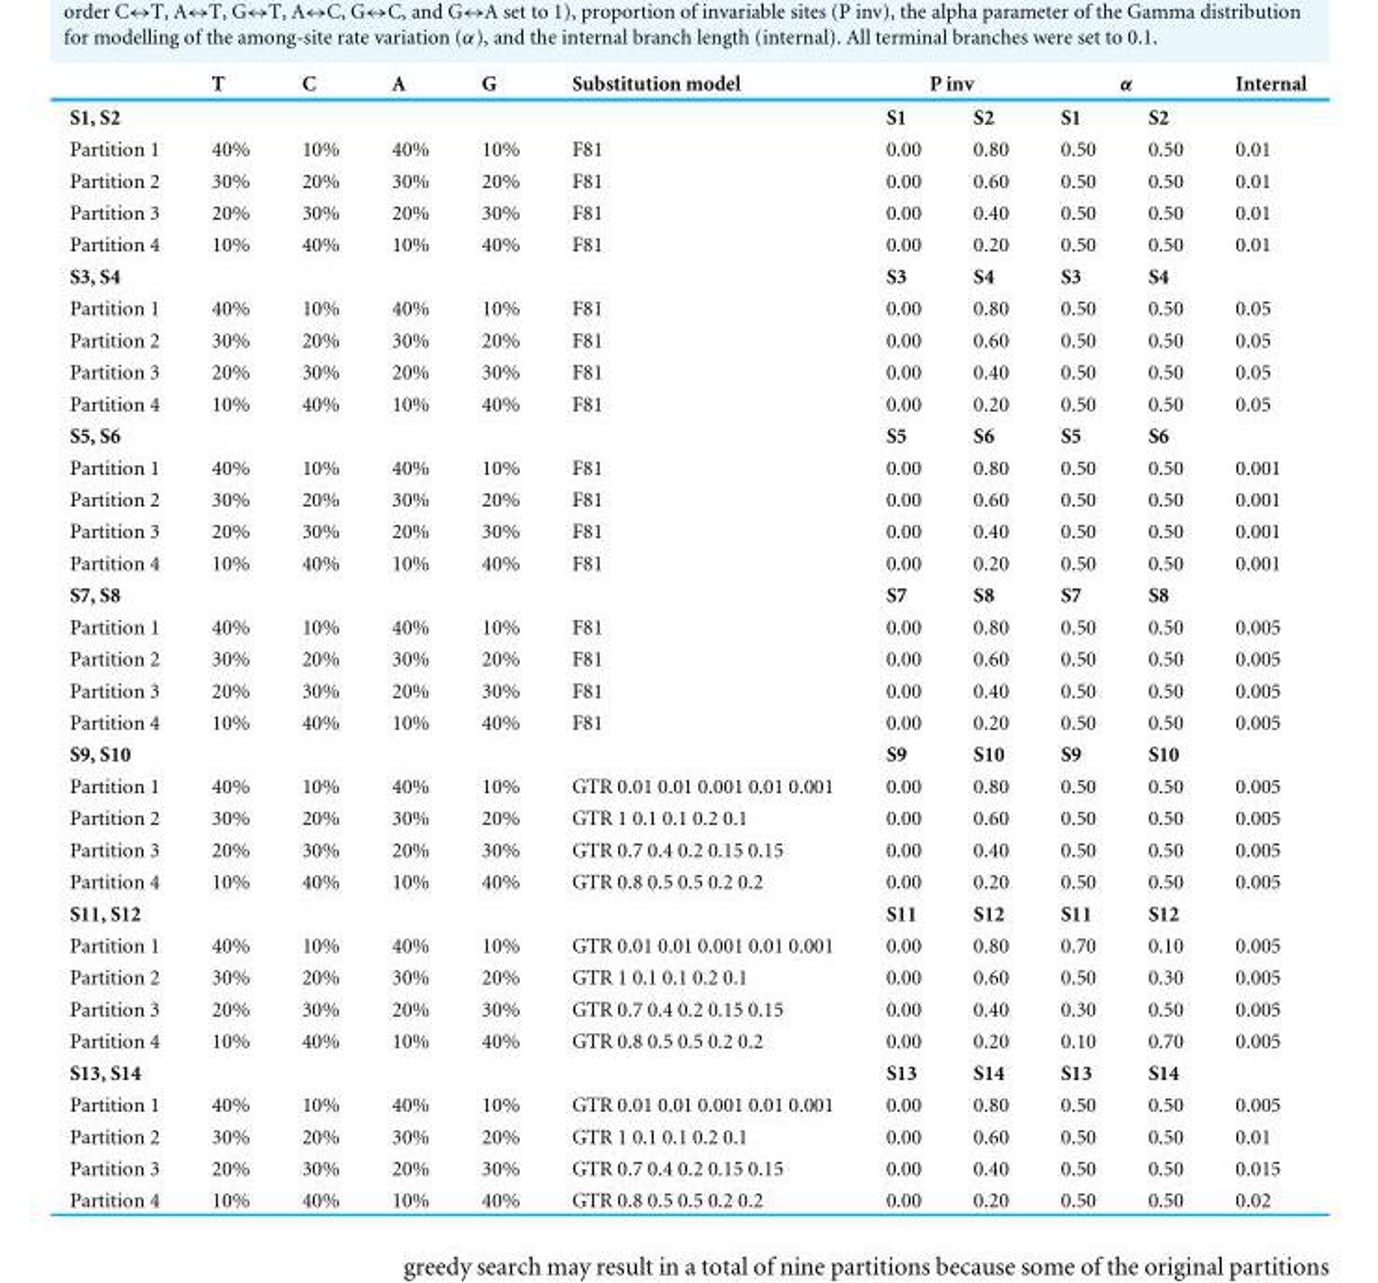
<table><thead><tr><td rowspan="2">S1, S2</td><td rowspan="2">T</td><td rowspan="2">C</td><td rowspan="2">A</td><td rowspan="2">G</td><td rowspan="2">Substitution model</td><td colspan="2">P inv</td><td colspan="2">α</td><td rowspan="2">Internal</td></tr><tr><td>S1</td><td>S2</td><td>S1</td><td>S2</td></tr></thead><tbody><tr><td>Partition 1</td><td>40%</td><td>10%</td><td>40%</td><td>10%</td><td>F81</td><td>0.00</td><td>0.80</td><td>0.50</td><td>0.50</td><td>0.01</td></tr><tr><td>Partition 2</td><td>30%</td><td>20%</td><td>30%</td><td>20%</td><td>F81</td><td>0.00</td><td>0.60</td><td>0.50</td><td>0.50</td><td>0.01</td></tr><tr><td>Partition 3</td><td>20%</td><td>30%</td><td>20%</td><td>30%</td><td>F81</td><td>0.00</td><td>0.40</td><td>0.50</td><td>0.50</td><td>0.01</td></tr><tr><td>Partition 4</td><td>10%</td><td>40%</td><td>10%</td><td>40%</td><td>F81</td><td>0.00</td><td>0.20</td><td>0.50</td><td>0.50</td><td>0.01</td></tr><tr><td>S3, S4</td><td></td><td></td><td></td><td></td><td></td><td>S3</td><td>S4</td><td>S3</td><td>S4</td><td></td></tr><tr><td>Partition 1</td><td>40%</td><td>10%</td><td>40%</td><td>10%</td><td>F81</td><td>0.00</td><td>0.80</td><td>0.50</td><td>0.50</td><td>0.05</td></tr><tr><td>Partition 2</td><td>30%</td><td>20%</td><td>30%</td><td>20%</td><td>F81</td><td>0.00</td><td>0.60</td><td>0.50</td><td>0.50</td><td>0.05</td></tr><tr><td>Partition 3</td><td>20%</td><td>30%</td><td>20%</td><td>30%</td><td>F81</td><td>0.00</td><td>0.40</td><td>0.50</td><td>0.50</td><td>0.05</td></tr><tr><td>Partition 4</td><td>10%</td><td>40%</td><td>10%</td><td>40%</td><td>F81</td><td>0.00</td><td>0.20</td><td>0.50</td><td>0.50</td><td>0.05</td></tr><tr><td>S5, S6</td><td></td><td></td><td></td><td></td><td></td><td>S5</td><td>S6</td><td>S5</td><td>S6</td><td></td></tr><tr><td>Partition 1</td><td>40%</td><td>10%</td><td>40%</td><td>10%</td><td>F81</td><td>0.00</td><td>0.80</td><td>0.50</td><td>0.50</td><td>0.001</td></tr><tr><td>Partition 2</td><td>30%</td><td>20%</td><td>30%</td><td>20%</td><td>F81</td><td>0.00</td><td>0.60</td><td>0.50</td><td>0.50</td><td>0.001</td></tr><tr><td>Partition 3</td><td>20%</td><td>30%</td><td>20%</td><td>30%</td><td>F81</td><td>0.00</td><td>0.40</td><td>0.50</td><td>0.50</td><td>0.001</td></tr><tr><td>Partition 4</td><td>10%</td><td>40%</td><td>10%</td><td>40%</td><td>F81</td><td>0.00</td><td>0.20</td><td>0.50</td><td>0.50</td><td>0.001</td></tr><tr><td>S7, S8</td><td></td><td></td><td></td><td></td><td></td><td>S7</td><td>S8</td><td>S7</td><td>S8</td><td></td></tr><tr><td>Partition 1</td><td>40%</td><td>10%</td><td>40%</td><td>10%</td><td>F81</td><td>0.00</td><td>0.80</td><td>0.50</td><td>0.50</td><td>0.005</td></tr><tr><td>Partition 2</td><td>30%</td><td>20%</td><td>30%</td><td>20%</td><td>F81</td><td>0.00</td><td>0.60</td><td>0.50</td><td>0.50</td><td>0.005</td></tr><tr><td>Partition 3</td><td>20%</td><td>30%</td><td>20%</td><td>30%</td><td>F81</td><td>0.00</td><td>0.40</td><td>0.50</td><td>0.50</td><td>0.005</td></tr><tr><td>Partition 4</td><td>10%</td><td>40%</td><td>10%</td><td>40%</td><td>F81</td><td>0.00</td><td>0.20</td><td>0.50</td><td>0.50</td><td>0.005</td></tr><tr><td>S9, S10</td><td></td><td></td><td></td><td></td><td></td><td>S9</td><td>S10</td><td>S9</td><td>S10</td><td></td></tr><tr><td>Partition 1</td><td>40%</td><td>10%</td><td>40%</td><td>10%</td><td>GTR 0.01 0.01 0.001 0.01 0.001</td><td>0.00</td><td>0.80</td><td>0.50</td><td>0.50</td><td>0.005</td></tr><tr><td>Partition 2</td><td>30%</td><td>20%</td><td>30%</td><td>20%</td><td>GTR 1 0.1 0.1 0.2 0.1</td><td>0.00</td><td>0.60</td><td>0.50</td><td>0.50</td><td>0.005</td></tr><tr><td>Partition 3</td><td>20%</td><td>30%</td><td>20%</td><td>30%</td><td>GTR 0.7 0.4 0.2 0.15 0.15</td><td>0.00</td><td>0.40</td><td>0.50</td><td>0.50</td><td>0.005</td></tr><tr><td>Partition 4</td><td>10%</td><td>40%</td><td>10%</td><td>40%</td><td>GTR 0.8 0.5 0.5 0.2 0.2</td><td>0.00</td><td>0.20</td><td>0.50</td><td>0.50</td><td>0.005</td></tr><tr><td>S11, S12</td><td></td><td></td><td></td><td></td><td></td><td>S11</td><td>S12</td><td>S11</td><td>S12</td><td></td></tr><tr><td>Partition 1</td><td>40%</td><td>10%</td><td>40%</td><td>10%</td><td>GTR 0.01 0.01 0.001 0.01 0.001</td><td>0.00</td><td>0.80</td><td>0.70</td><td>0.10</td><td>0.005</td></tr><tr><td>Partition 2</td><td>30%</td><td>20%</td><td>30%</td><td>20%</td><td>GTR 1 0.1 0.1 0.2 0.1</td><td>0.00</td><td>0.60</td><td>0.50</td><td>0.30</td><td>0.005</td></tr><tr><td>Partition 3</td><td>20%</td><td>30%</td><td>20%</td><td>30%</td><td>GTR 0.7 0.4 0.2 0.15 0.15</td><td>0.00</td><td>0.40</td><td>0.30</td><td>0.50</td><td>0.005</td></tr><tr><td>Partition 4</td><td>10%</td><td>40%</td><td>10%</td><td>40%</td><td>GTR 0.8 0.5 0.5 0.2 0.2</td><td>0.00</td><td>0.20</td><td>0.10</td><td>0.70</td><td>0.005</td></tr><tr><td>S13, S14</td><td></td><td></td><td></td><td></td><td></td><td>S13</td><td>S14</td><td>S13</td><td>S14</td><td></td></tr><tr><td>Partition 1</td><td>40%</td><td>10%</td><td>40%</td><td>10%</td><td>GTR 0.01 0.01 0.001 0.01 0.001</td><td>0.00</td><td>0.80</td><td>0.50</td><td>0.50</td><td>0.005</td></tr><tr><td>Partition 2</td><td>30%</td><td>20%</td><td>30%</td><td>20%</td><td>GTR 1 0.1 0.1 0.2 0.1</td><td>0.00</td><td>0.60</td><td>0.50</td><td>0.50</td><td>0.01</td></tr><tr><td>Partition 3</td><td>20%</td><td>30%</td><td>20%</td><td>30%</td><td>GTR 0.7 0.4 0.2 0.15 0.15</td><td>0.00</td><td>0.40</td><td>0.50</td><td>0.50</td><td>0.015</td></tr><tr><td>Partition 4</td><td>10%</td><td>40%</td><td>10%</td><td>40%</td><td>GTR 0.8 0.5 0.5 0.2 0.2</td><td>0.00</td><td>0.20</td><td>0.50</td><td>0.50</td><td>0.02</td></tr></tbody></table>